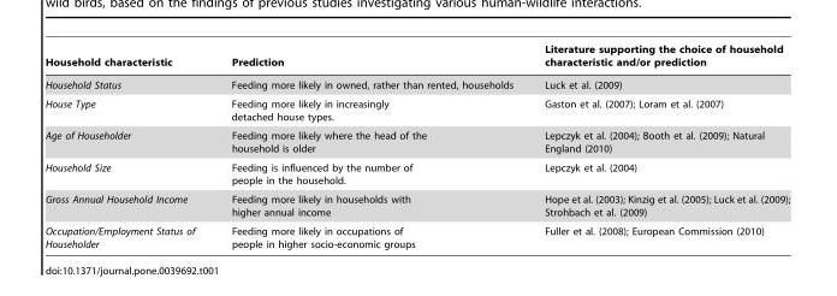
<table><thead><tr><td>Household characteristic</td><td>Prediction</td><td>Literature supporting the choice of household characteristic and/or prediction</td></tr></thead><tbody><tr><td>Household Status</td><td>Feeding more likely in owned, rather than rented, households</td><td>Luck et al. (2009)</td></tr><tr><td>House Type</td><td>Feeding more likely in increasingly detached house types.</td><td>Gaston et al. (2007); Loram et al. (2007)</td></tr><tr><td>Age of Householder</td><td>Feeding more likely where the head of the household is older</td><td>Lepczyk et al. (2004); Booth et al. (2009); Natural England (2010)</td></tr><tr><td>Household Size</td><td>Feeding is influenced by the number of people in the household.</td><td>Lepczyk et al. (2004)</td></tr><tr><td>Gross Annual Household Income</td><td>Feeding more likely in households with higher annual income</td><td>Hope et al. (2003); Kinzig et al. (2005); Luck et al. (2009); Strohbach et al. (2009)</td></tr><tr><td>Occupation/Employment Status of Householder</td><td>Feeding more likely in occupations of people in higher socio-economic groups</td><td>Fuller et al. (2008); European Commission (2010)</td></tr></tbody></table>